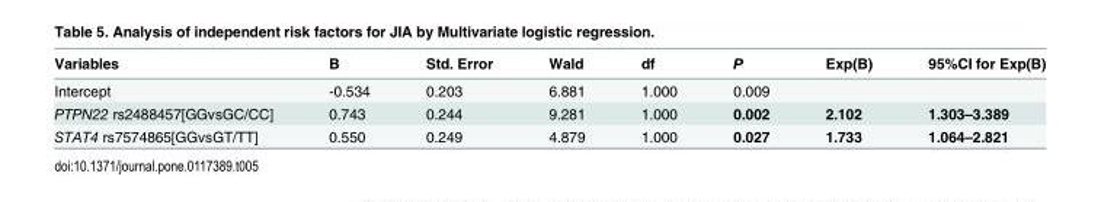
<table><thead><tr><td>Variables</td><td>B</td><td>Std. Error</td><td>Wald</td><td>df</td><td>P</td><td>Exp(B)</td><td>95%CI for Exp(B)</td></tr></thead><tbody><tr><td>Intercept</td><td>-0.534</td><td>0.203</td><td>6.881</td><td>1.000</td><td>0.009</td><td></td><td></td></tr><tr><td>PTPN22 rs2488457[GGvsGC/CC]</td><td>0.743</td><td>0.244</td><td>9.281</td><td>1.000</td><td>0.002</td><td>2.102</td><td>1.303–3.389</td></tr><tr><td>STAT4 rs7574865[GGvsGT/TT]</td><td>0.550</td><td>0.249</td><td>4.879</td><td>1.000</td><td>0.027</td><td>1.733</td><td>1.064–2.821</td></tr></tbody></table>